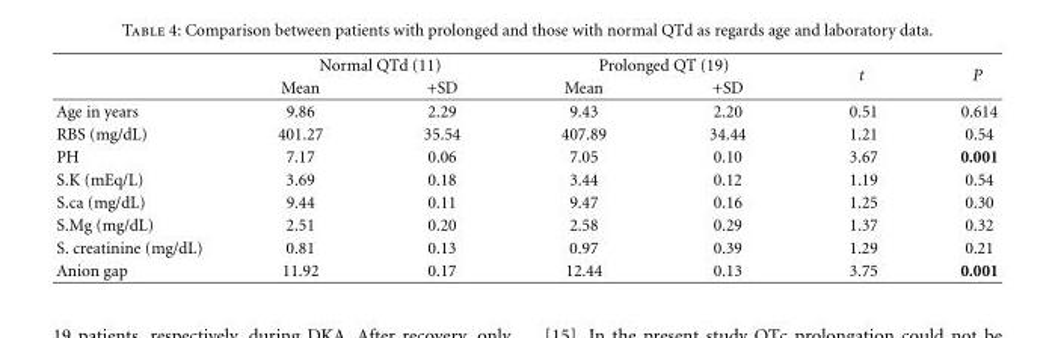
<table><thead><tr><td rowspan="2"></td><td colspan="2">Normal QTd (11)</td><td colspan="2">Prolonged QT (19)</td><td rowspan="2">t</td><td rowspan="2">P</td></tr><tr><td>Mean</td><td>+SD</td><td>Mean</td><td>+SD</td></tr></thead><tbody><tr><td>Age in years</td><td>9.86</td><td>2.29</td><td>9.43</td><td>2.20</td><td>0.51</td><td>0.614</td></tr><tr><td>RBS (mg/dL)</td><td>401.27</td><td>35.54</td><td>407.89</td><td>34.44</td><td>1.21</td><td>0.54</td></tr><tr><td>PH</td><td>7.17</td><td>0.06</td><td>7.05</td><td>0.10</td><td>3.67</td><td>0.001</td></tr><tr><td>S.K (mEq/L)</td><td>3.69</td><td>0.18</td><td>3.44</td><td>0.12</td><td>1.19</td><td>0.54</td></tr><tr><td>S.ca (mg/dL)</td><td>9.44</td><td>0.11</td><td>9.47</td><td>0.16</td><td>1.25</td><td>0.30</td></tr><tr><td>S.Mg (mg/dL)</td><td>2.51</td><td>0.20</td><td>2.58</td><td>0.29</td><td>1.37</td><td>0.32</td></tr><tr><td>S. creatinine (mg/dL)</td><td>0.81</td><td>0.13</td><td>0.97</td><td>0.39</td><td>1.29</td><td>0.21</td></tr><tr><td>Anion gap</td><td>11.92</td><td>0.17</td><td>12.44</td><td>0.13</td><td>3.75</td><td>0.001</td></tr></tbody></table>